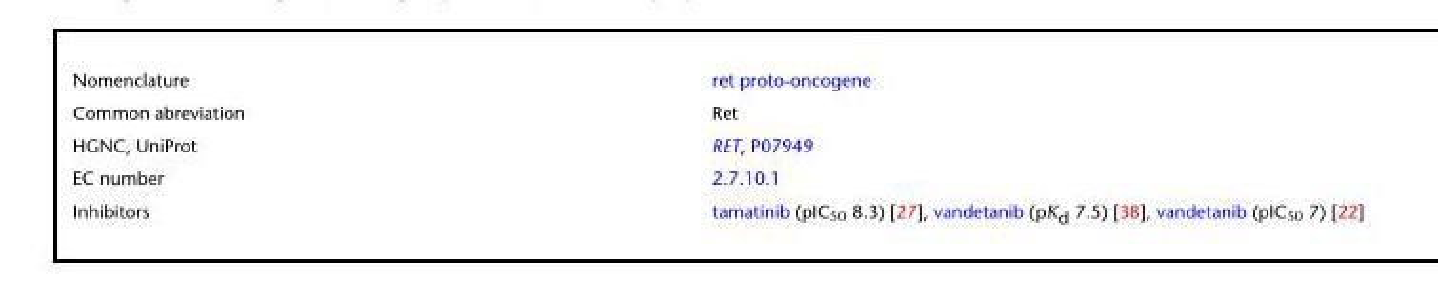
<table><tbody><tr><td>Nomenclature</td><td>ret proto-oncogene</td></tr><tr><td>Common abreviation</td><td>Ret</td></tr><tr><td>HGNC, UniProt</td><td>RET, P07949</td></tr><tr><td>EC number</td><td>2.7.10.1</td></tr><tr><td>Inhibitors</td><td>tamatinib (pIC<sub>50</sub> 8.3) [27], vandetanib (pK<sub>d</sub> 7.5) [38], vandetanib (pIC<sub>50</sub> 7) [22]</td></tr></tbody></table>